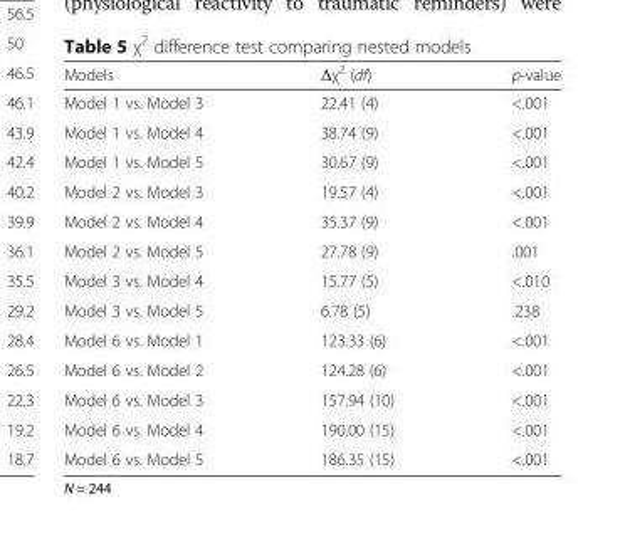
<table><thead><tr><td>Models</td><td>Δχ<sup>2</sup> (df)</td><td>p-value</td></tr></thead><tbody><tr><td>Model 1 vs. Model 3</td><td>22.41 (4)</td><td>&lt;.001</td></tr><tr><td>Model 1 vs. Model 4</td><td>38.74 (9)</td><td>&lt;.001</td></tr><tr><td>Model 1 vs. Model 5</td><td>30.67 (9)</td><td>&lt;.001</td></tr><tr><td>Model 2 vs. Model 3</td><td>19.57 (4)</td><td>&lt;.001</td></tr><tr><td>Model 2 vs. Model 4</td><td>35.37 (9)</td><td>&lt;.001</td></tr><tr><td>Model 2 vs. Model 5</td><td>27.78 (9)</td><td>.001</td></tr><tr><td>Model 3 vs. Model 4</td><td>15.77 (5)</td><td>&lt;.010</td></tr><tr><td>Model 3 vs. Model 5</td><td>6.78 (5)</td><td>.238</td></tr><tr><td>Model 6 vs. Model 1</td><td>123.33 (6)</td><td>&lt;.001</td></tr><tr><td>Model 6 vs. Model 2</td><td>124.28 (6)</td><td>&lt;.001</td></tr><tr><td>Model 6 vs. Model 3</td><td>157.94 (10)</td><td>&lt;.001</td></tr><tr><td>Model 6 vs. Model 4</td><td>190.00 (15)</td><td>&lt;.001</td></tr><tr><td>Model 6 vs. Model 5</td><td>186.35 (15)</td><td>&lt;.001</td></tr></tbody></table>